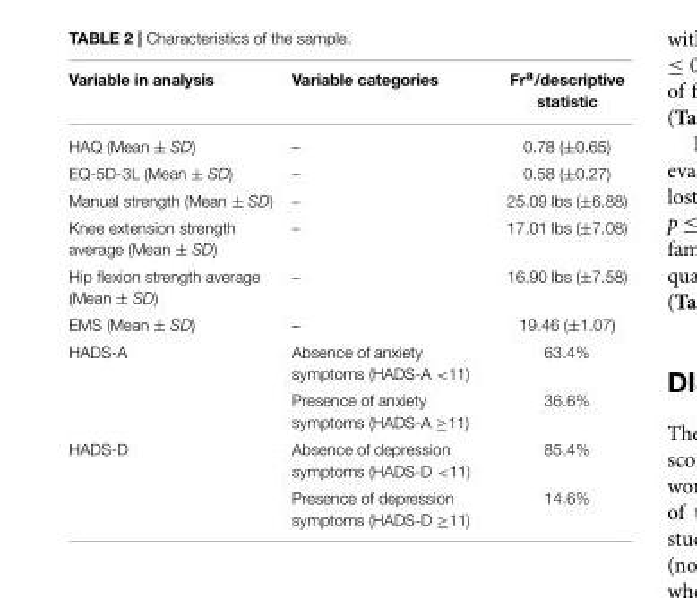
<table><thead><tr><td>Variable in analysis</td><td>Variable categories</td><td>Fr<sup>a</sup>/descriptive statistic</td></tr></thead><tbody><tr><td>HAQ (Mean ± SD)</td><td>–</td><td>0.78 (±0.65)</td></tr><tr><td>EQ-5D-3L (Mean ± SD)</td><td>–</td><td>0.58 (±0.27)</td></tr><tr><td>Manual strength (Mean ± SD)</td><td>–</td><td>25.09 lbs (±6.88)</td></tr><tr><td>Knee extension strength average (Mean ± SD)</td><td>–</td><td>17.01 lbs (±7.08)</td></tr><tr><td>Hip flexion strength average (Mean ± SD)</td><td>–</td><td>16.90 lbs (±7.58)</td></tr><tr><td>EMS (Mean ± SD)</td><td>–</td><td>19.46 (±1.07)</td></tr><tr><td rowspan="2">HADS-A</td><td>Absence of anxiety symptoms (HADS-A &lt;11)</td><td>63.4%</td></tr><tr><td>Presence of anxiety symptoms (HADS-A ≥11)</td><td>36.6%</td></tr><tr><td rowspan="2">HADS-D</td><td>Absence of depression symptoms (HADS-D &lt;11)</td><td>85.4%</td></tr><tr><td>Presence of depression symptoms (HADS-D ≥11)</td><td>14.6%</td></tr></tbody></table>